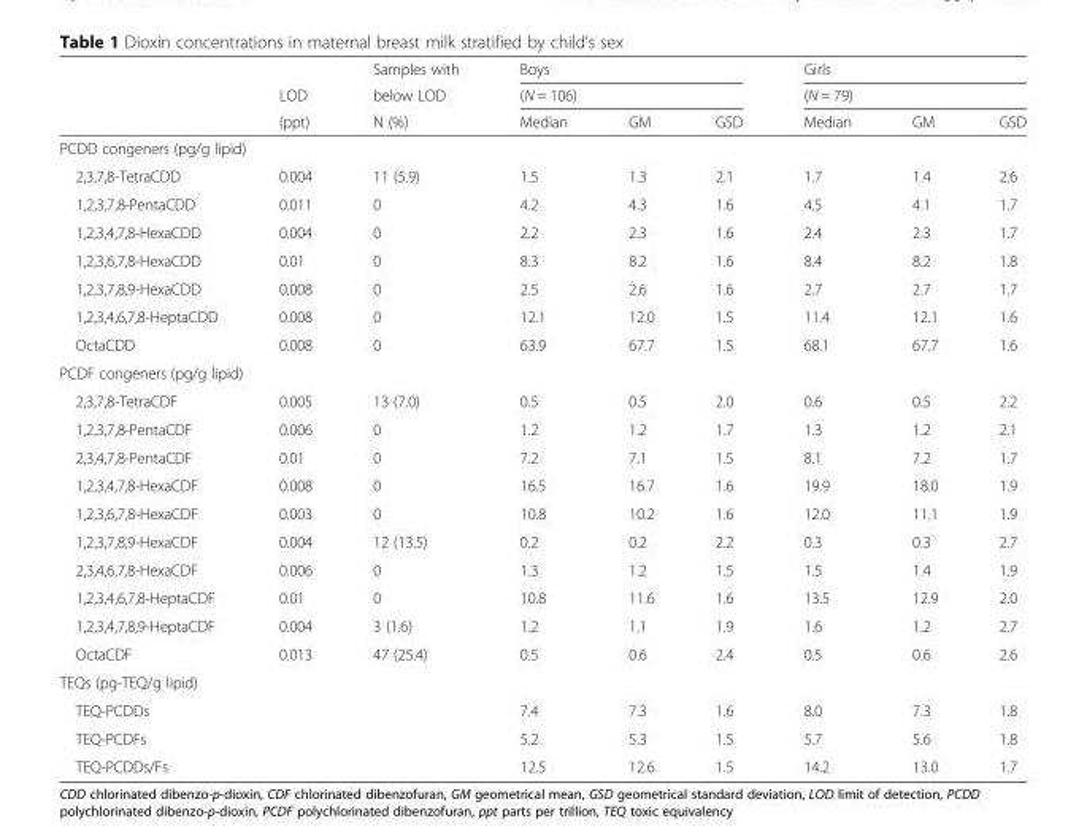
<table><thead><tr><td rowspan="3"></td><td rowspan="3">LOD (ppt)</td><td rowspan="3">Samples with below LOD N (%)</td><td rowspan="2" colspan="3">Boys (N = 106)</td><td rowspan="2" colspan="3">Girls (N = 79)</td></tr><tr></tr><tr><td>Median</td><td>GM</td><td>GSD</td><td>Median</td><td>GM</td><td>GSD</td></tr></thead><tbody><tr><td colspan="9">PCDD congeners (pg/g lipid)</td></tr><tr><td>2,3,7,8-TetraCDD</td><td>0.004</td><td>11 (5.9)</td><td>1.5</td><td>1.3</td><td>2.1</td><td>1.7</td><td>1.4</td><td>2.6</td></tr><tr><td>1,2,3,7,8-PentaCDD</td><td>0.011</td><td>0</td><td>4.2</td><td>4.3</td><td>1.6</td><td>4.5</td><td>4.1</td><td>1.7</td></tr><tr><td>1,2,3,4,7,8-HexaCDD</td><td>0.004</td><td>0</td><td>2.2</td><td>2.3</td><td>1.6</td><td>2.4</td><td>2.3</td><td>1.7</td></tr><tr><td>1,2,3,6,7,8-HexaCDD</td><td>0.01</td><td>0</td><td>8.3</td><td>8.2</td><td>1.6</td><td>8.4</td><td>8.2</td><td>1.8</td></tr><tr><td>1,2,3,7,8,9-HexaCDD</td><td>0.008</td><td>0</td><td>2.5</td><td>2.6</td><td>1.6</td><td>2.7</td><td>2.7</td><td>1.7</td></tr><tr><td>1,2,3,4,6,7,8-HeptaCDD</td><td>0.008</td><td>0</td><td>12.1</td><td>12.0</td><td>1.5</td><td>11.4</td><td>12.1</td><td>1.6</td></tr><tr><td>OctaCDD</td><td>0.008</td><td>0</td><td>63.9</td><td>67.7</td><td>1.5</td><td>68.1</td><td>67.7</td><td>1.6</td></tr><tr><td colspan="9">PCDF congeners (pg/g lipid)</td></tr><tr><td>2,3,7,8-TetraCDF</td><td>0.005</td><td>13 (7.0)</td><td>0.5</td><td>0.5</td><td>2.0</td><td>0.6</td><td>0.5</td><td>2.2</td></tr><tr><td>1,2,3,7,8-PentaCDF</td><td>0.006</td><td>0</td><td>1.2</td><td>1.2</td><td>1.7</td><td>1.3</td><td>1.2</td><td>2.1</td></tr><tr><td>2,3,4,7,8-PentaCDF</td><td>0.01</td><td>0</td><td>7.2</td><td>7.1</td><td>1.5</td><td>8.1</td><td>7.2</td><td>1.7</td></tr><tr><td>1,2,3,4,7,8-HexaCDF</td><td>0.008</td><td>0</td><td>16.5</td><td>16.7</td><td>1.6</td><td>19.9</td><td>18.0</td><td>1.9</td></tr><tr><td>1,2,3,6,7,8-HexaCDF</td><td>0.003</td><td>0</td><td>10.8</td><td>10.2</td><td>1.6</td><td>12.0</td><td>11.1</td><td>1.9</td></tr><tr><td>1,2,3,7,8,9-HexaCDF</td><td>0.004</td><td>12 (13.5)</td><td>0.2</td><td>0.2</td><td>2.2</td><td>0.3</td><td>0.3</td><td>2.7</td></tr><tr><td>2,3,4,6,7,8-HexaCDF</td><td>0.006</td><td>0</td><td>1.3</td><td>1.2</td><td>1.5</td><td>1.5</td><td>1.4</td><td>1.9</td></tr><tr><td>1,2,3,4,6,7,8-HeptaCDF</td><td>0.01</td><td>0</td><td>10.8</td><td>11.6</td><td>1.6</td><td>13.5</td><td>12.9</td><td>2.0</td></tr><tr><td>1,2,3,4,7,8,9-HeptaCDF</td><td>0.004</td><td>3 (1.6)</td><td>1.2</td><td>1.1</td><td>1.9</td><td>1.6</td><td>1.2</td><td>2.7</td></tr><tr><td>OctaCDF</td><td>0.013</td><td>47 (25.4)</td><td>0.5</td><td>0.6</td><td>2.4</td><td>0.5</td><td>0.6</td><td>2.6</td></tr><tr><td colspan="9">TEQs (pg-TEQ/g lipid)</td></tr><tr><td>TEQ-PCDDs</td><td></td><td></td><td>7.4</td><td>7.3</td><td>1.6</td><td>8.0</td><td>7.3</td><td>1.8</td></tr><tr><td>TEQ-PCDFs</td><td></td><td></td><td>5.2</td><td>5.3</td><td>1.5</td><td>5.7</td><td>5.6</td><td>1.8</td></tr><tr><td>TEQ-PCDDs/Fs</td><td></td><td></td><td>12.5</td><td>12.6</td><td>1.5</td><td>14.2</td><td>13.0</td><td>1.7</td></tr></tbody></table>